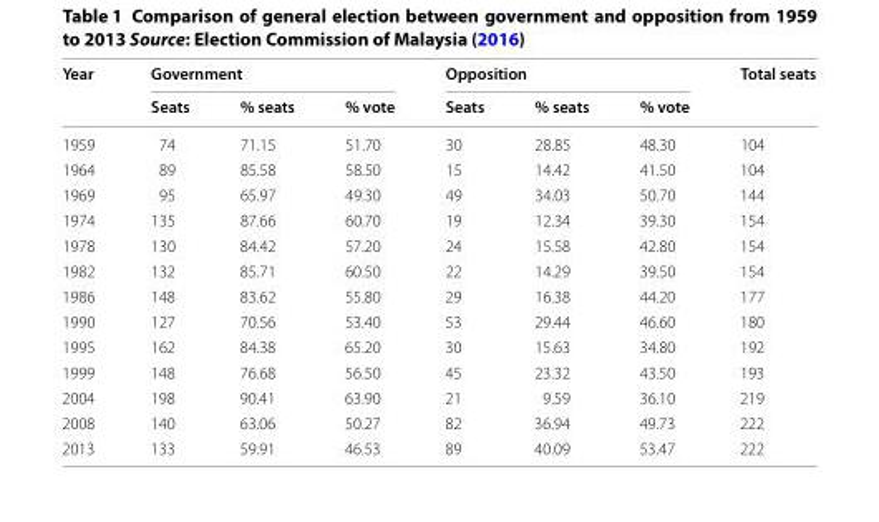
<table><thead><tr><td rowspan="2">Year</td><td colspan="3">Government</td><td colspan="3">Opposition</td><td rowspan="2">Total seats</td></tr><tr><td>Seats</td><td>% seats</td><td>% vote</td><td>Seats</td><td>% seats</td><td>% vote</td></tr></thead><tbody><tr><td>1959</td><td>74</td><td>71.15</td><td>51.70</td><td>30</td><td>28.85</td><td>48.30</td><td>104</td></tr><tr><td>1964</td><td>89</td><td>85.58</td><td>58.50</td><td>15</td><td>14.42</td><td>41.50</td><td>104</td></tr><tr><td>1969</td><td>95</td><td>65.97</td><td>49.30</td><td>49</td><td>34.03</td><td>50.70</td><td>144</td></tr><tr><td>1974</td><td>135</td><td>87.66</td><td>60.70</td><td>19</td><td>12.34</td><td>39.30</td><td>154</td></tr><tr><td>1978</td><td>130</td><td>84.42</td><td>57.20</td><td>24</td><td>15.58</td><td>42.80</td><td>154</td></tr><tr><td>1982</td><td>132</td><td>85.71</td><td>60.50</td><td>22</td><td>14.29</td><td>39.50</td><td>154</td></tr><tr><td>1986</td><td>148</td><td>83.62</td><td>55.80</td><td>29</td><td>16.38</td><td>44.20</td><td>177</td></tr><tr><td>1990</td><td>127</td><td>70.56</td><td>53.40</td><td>53</td><td>29.44</td><td>46.60</td><td>180</td></tr><tr><td>1995</td><td>162</td><td>84.38</td><td>65.20</td><td>30</td><td>15.63</td><td>34.80</td><td>192</td></tr><tr><td>1999</td><td>148</td><td>76.68</td><td>56.50</td><td>45</td><td>23.32</td><td>43.50</td><td>193</td></tr><tr><td>2004</td><td>198</td><td>90.41</td><td>63.90</td><td>21</td><td>9.59</td><td>36.10</td><td>219</td></tr><tr><td>2008</td><td>140</td><td>63.06</td><td>50.27</td><td>82</td><td>36.94</td><td>49.73</td><td>222</td></tr><tr><td>2013</td><td>133</td><td>59.91</td><td>46.53</td><td>89</td><td>40.09</td><td>53.47</td><td>222</td></tr></tbody></table>